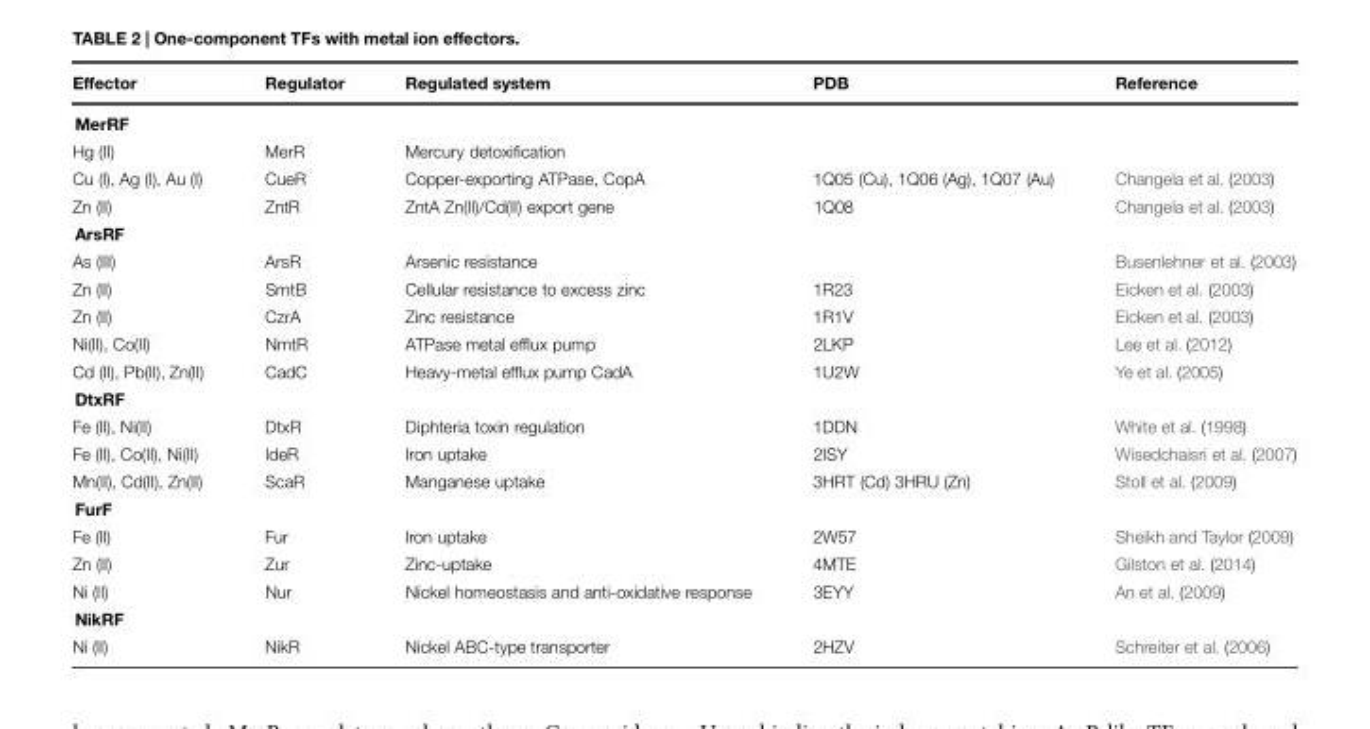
<table><thead><tr><td>Effector</td><td>Regulator</td><td>Regulated system</td><td>PDB</td><td>Reference</td></tr></thead><tbody><tr><td colspan="5">MerRF</td></tr><tr><td>Hg (II)</td><td>MerR</td><td>Mercury detoxification</td><td></td><td></td></tr><tr><td>Cu (I), Ag (I), Au (I)</td><td>CueR</td><td>Copper-exporting ATPase, CopA</td><td>1Q05 (Cu), 1Q06 (Ag), 1Q07 (Au)</td><td>Changela et al. (2003)</td></tr><tr><td>Zn (II)</td><td>ZntR</td><td>ZntA Zn(II)/Cd(II) export gene</td><td>1Q08</td><td>Changela et al. (2003)</td></tr><tr><td colspan="5">ArsRF</td></tr><tr><td>As (III)</td><td>ArsR</td><td>Arsenic resistance</td><td></td><td>Busenlehner et al. (2003)</td></tr><tr><td>Zn (II)</td><td>SmtB</td><td>Cellular resistance to excess zinc</td><td>1R23</td><td>Eicken et al. (2003)</td></tr><tr><td>Zn (II)</td><td>CzrA</td><td>Zinc resistance</td><td>1R1V</td><td>Eicken et al. (2003)</td></tr><tr><td>Ni(II), Co(II)</td><td>NmtR</td><td>ATPase metal efflux pump</td><td>2LKP</td><td>Lee et al. (2012)</td></tr><tr><td>Cd (II), Pb(II), Zn(II)</td><td>CadC</td><td>Heavy-metal efflux pump CadA</td><td>1U2W</td><td>Ye et al. (2005)</td></tr><tr><td colspan="5">DtxRF</td></tr><tr><td>Fe (II), Ni(II)</td><td>DtxR</td><td>Diphteria toxin regulation</td><td>1DDN</td><td>White et al. (1998)</td></tr><tr><td>Fe (II), Co(II), Ni(II)</td><td>IdeR</td><td>Iron uptake</td><td>2ISY</td><td>Wisedchaisri et al. (2007)</td></tr><tr><td>Mn(II), Cd(II), Zn(II)</td><td>ScaR</td><td>Manganese uptake</td><td>3HRT (Cd) 3HRU (Zn)</td><td>Stoll et al. (2009)</td></tr><tr><td colspan="5">FurF</td></tr><tr><td>Fe (II)</td><td>Fur</td><td>Iron uptake</td><td>2W57</td><td>Sheikh and Taylor (2009)</td></tr><tr><td>Zn (II)</td><td>Zur</td><td>Zinc-uptake</td><td>4MTE</td><td>Gilston et al. (2014)</td></tr><tr><td>Ni (II)</td><td>Nur</td><td>Nickel homeostasis and anti-oxidative response</td><td>3EYY</td><td>An et al. (2009)</td></tr><tr><td colspan="5">NikRF</td></tr><tr><td>Ni (II)</td><td>NikR</td><td>Nickel ABC-type transporter</td><td>2HZV</td><td>Schreiter et al. (2006)</td></tr></tbody></table>